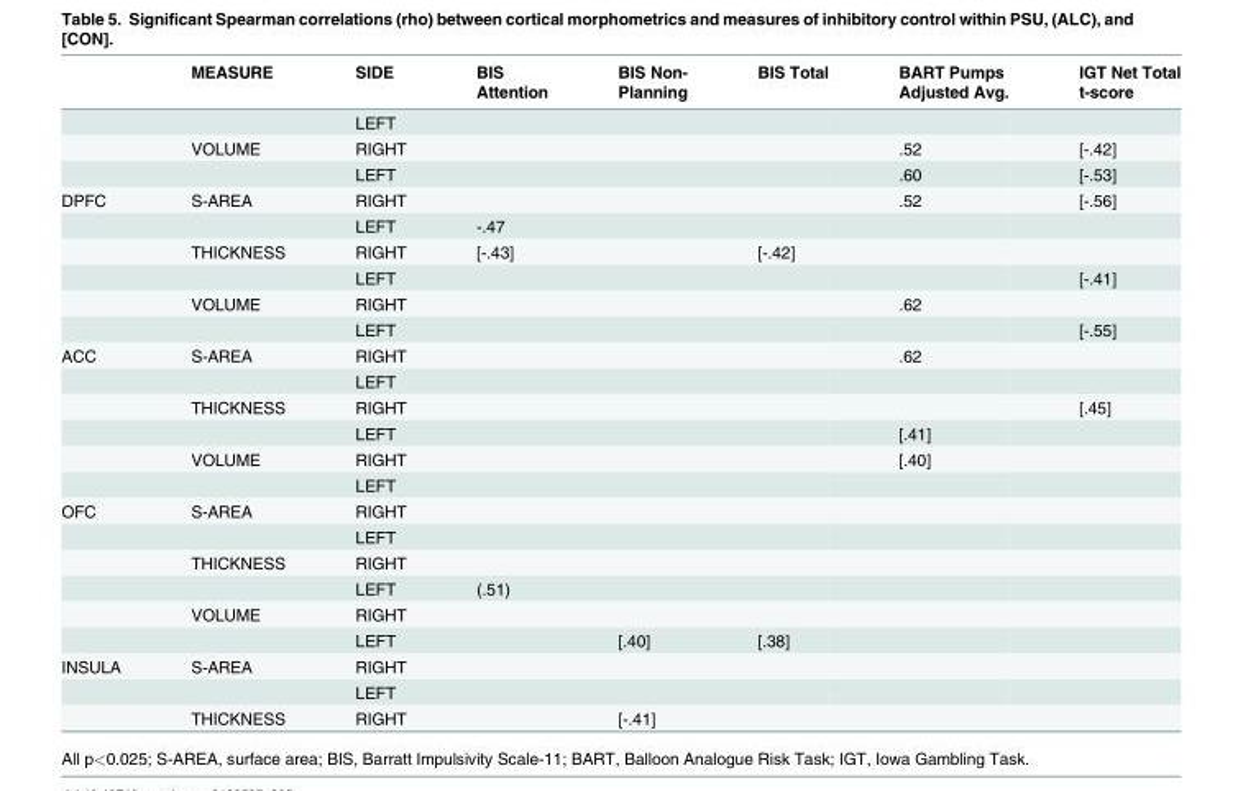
<table><thead><tr><td rowspan="2"></td><td rowspan="2">MEASURE</td><td rowspan="2">SIDE</td><td rowspan="2">BIS Attention</td><td rowspan="2">BIS Non- Planning</td><td rowspan="2">BIS Total</td><td rowspan="2">BART Pumps Adjusted Avg.</td><td rowspan="2">IGT Net Total t-score</td></tr><tr></tr></thead><tbody><tr><td></td><td></td><td>LEFT</td><td></td><td></td><td></td><td></td><td></td></tr><tr><td></td><td>VOLUME</td><td>RIGHT</td><td></td><td></td><td></td><td>.52</td><td>[-.42]</td></tr><tr><td></td><td></td><td>LEFT</td><td></td><td></td><td></td><td>.60</td><td>[-.53]</td></tr><tr><td rowspan="6">DPFC</td><td>S-AREA</td><td>RIGHT</td><td></td><td></td><td></td><td>.52</td><td>[-.56]</td></tr><tr><td></td><td>LEFT</td><td>-.47</td><td></td><td></td><td></td><td></td></tr><tr><td>THICKNESS</td><td>RIGHT</td><td>[-.43]</td><td></td><td>[-.42]</td><td></td><td></td></tr><tr><td></td><td>LEFT</td><td></td><td></td><td></td><td></td><td>[-.41]</td></tr><tr><td>VOLUME</td><td>RIGHT</td><td></td><td></td><td></td><td>.62</td><td></td></tr><tr><td></td><td>LEFT</td><td></td><td></td><td></td><td></td><td>[-.55]</td></tr><tr><td rowspan="6">ACC</td><td>S-AREA</td><td>RIGHT</td><td></td><td></td><td></td><td>.62</td><td></td></tr><tr><td></td><td>LEFT</td><td></td><td></td><td></td><td></td><td></td></tr><tr><td>THICKNESS</td><td>RIGHT</td><td></td><td></td><td></td><td></td><td>[.45]</td></tr><tr><td></td><td>LEFT</td><td></td><td></td><td></td><td>[.41]</td><td></td></tr><tr><td>VOLUME</td><td>RIGHT</td><td></td><td></td><td></td><td>[.40]</td><td></td></tr><tr><td></td><td>LEFT</td><td></td><td></td><td></td><td></td><td></td></tr><tr><td rowspan="6">OFC</td><td>S-AREA</td><td>RIGHT</td><td></td><td></td><td></td><td></td><td></td></tr><tr><td></td><td>LEFT</td><td></td><td></td><td></td><td></td><td></td></tr><tr><td>THICKNESS</td><td>RIGHT</td><td></td><td></td><td></td><td></td><td></td></tr><tr><td></td><td>LEFT</td><td>(.51)</td><td></td><td></td><td></td><td></td></tr><tr><td>VOLUME</td><td>RIGHT</td><td></td><td></td><td></td><td></td><td></td></tr><tr><td></td><td>LEFT</td><td></td><td>[.40]</td><td>[.38]</td><td></td><td></td></tr><tr><td rowspan="3">INSULA</td><td>S-AREA</td><td>RIGHT</td><td></td><td></td><td></td><td></td><td></td></tr><tr><td></td><td>LEFT</td><td></td><td></td><td></td><td></td><td></td></tr><tr><td>THICKNESS</td><td>RIGHT</td><td></td><td>[-.41]</td><td></td><td></td><td></td></tr></tbody></table>